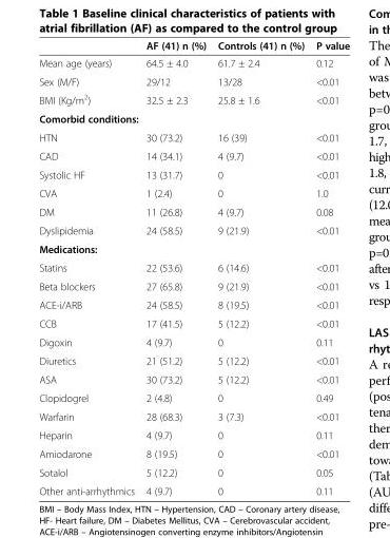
<table><thead><tr><td></td><td>AF (41) n (%)</td><td>Controls (41) n (%)</td><td>P value</td></tr></thead><tbody><tr><td>Mean age (years)</td><td>64.5 ± 4.0</td><td>61.7 ± 2.4</td><td>0.12</td></tr><tr><td>Sex (M/F)</td><td>29/12</td><td>13/28</td><td>&lt;0.01</td></tr><tr><td>BMI (Kg/m<sup>2</sup>)</td><td>32.5 ± 2.3</td><td>25.8 ± 1.6</td><td>&lt;0.01</td></tr><tr><td colspan="4">Comorbid conditions:</td></tr><tr><td>HTN</td><td>30 (73.2)</td><td>16 (39)</td><td>&lt;0.01</td></tr><tr><td>CAD</td><td>14 (34.1)</td><td>4 (9.7)</td><td>&lt;0.01</td></tr><tr><td>Systolic HF</td><td>13 (31.7)</td><td>0</td><td>&lt;0.01</td></tr><tr><td>CVA</td><td>1 (2.4)</td><td>0</td><td>1.0</td></tr><tr><td>DM</td><td>11 (26.8)</td><td>4 (9.7)</td><td>0.08</td></tr><tr><td>Dyslipidemia</td><td>24 (58.5)</td><td>9 (21.9)</td><td>&lt;0.01</td></tr><tr><td colspan="4">Medications:</td></tr><tr><td>Statins</td><td>22 (53.6)</td><td>6 (14.6)</td><td>&lt;0.01</td></tr><tr><td>Beta blockers</td><td>27 (65.8)</td><td>9 (21.9)</td><td>&lt;0.01</td></tr><tr><td>ACE-i/ARB</td><td>24 (58.5)</td><td>8 (19.5)</td><td>&lt;0.01</td></tr><tr><td>CCB</td><td>17 (41.5)</td><td>5 (12.2)</td><td>&lt;0.01</td></tr><tr><td>Digoxin</td><td>4 (9.7)</td><td>0</td><td>0.11</td></tr><tr><td>Diuretics</td><td>21 (51.2)</td><td>5 (12.2)</td><td>&lt;0.01</td></tr><tr><td>ASA</td><td>30 (73.2)</td><td>5 (12.2)</td><td>&lt;0.01</td></tr><tr><td>Clopidogrel</td><td>2 (4.8)</td><td>0</td><td>0.49</td></tr><tr><td>Warfarin</td><td>28 (68.3)</td><td>3 (7.3)</td><td>&lt;0.01</td></tr><tr><td>Heparin</td><td>4 (9.7)</td><td>0</td><td>0.11</td></tr><tr><td>Amiodarone</td><td>8 (19.5)</td><td>0</td><td>&lt;0.01</td></tr><tr><td>Sotalol</td><td>5 (12.2)</td><td>0</td><td>0.05</td></tr><tr><td>Other anti-arrhythmics</td><td>4 (9.7)</td><td>0</td><td>0.11</td></tr></tbody></table>